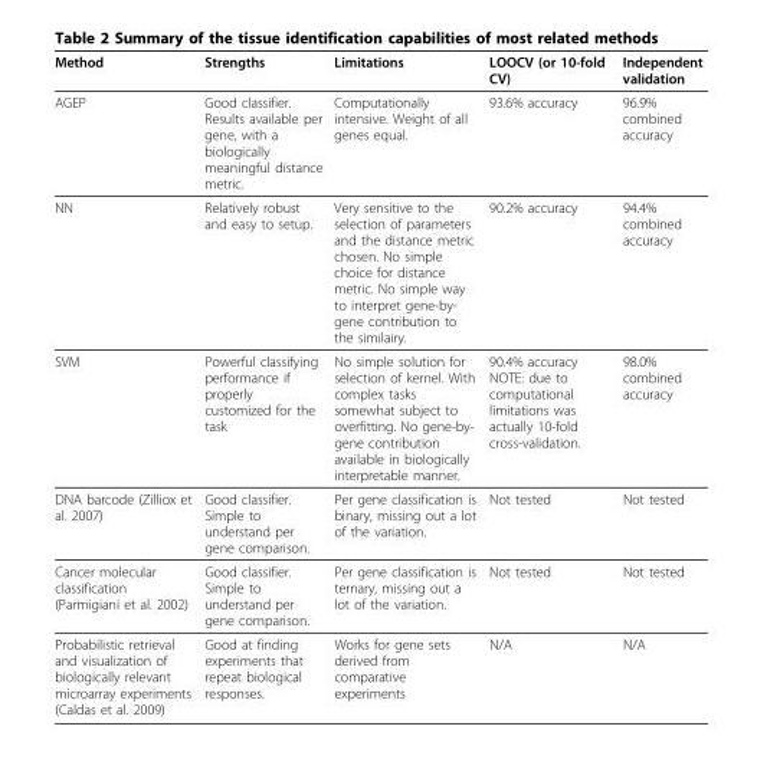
<table><thead><tr><td>Method</td><td>Strengths</td><td>Limitations</td><td>LOOCV (or 10-fold CV)</td><td>Independent validation</td></tr></thead><tbody><tr><td>AGEP</td><td>Good classifier. Results available per gene, with a biologically meaningful distance metric.</td><td>Computationally intensive. Weight of all genes equal.</td><td>93.6% accuracy</td><td>96.9% combined accuracy</td></tr><tr><td>NN</td><td>Relatively robust and easy to setup.</td><td>Very sensitive to the selection of parameters and the distance metric chosen. No simple choice for distance metric. No simple way to interpret gene-by- gene contribution to the similairy.</td><td>90.2% accuracy</td><td>94.4% combined accuracy</td></tr><tr><td>SVM</td><td>Powerful classifying performance if properly customized for the task</td><td>No simple solution for selection of kernel. With complex tasks somewhat subject to overfitting. No gene-by- gene contribution available in biologically interpretable manner.</td><td>90.4% accuracy NOTE: due to computational limitations was actually 10-fold cross-validation.</td><td>98.0% combined accuracy</td></tr><tr><td>DNA barcode (Zilliox et al. 2007)</td><td>Good classifier. Simple to understand per gene comparison.</td><td>Per gene classification is binary, missing out a lot of the variation.</td><td>Not tested</td><td>Not tested</td></tr><tr><td>Cancer molecular classification (Parmigiani et al. 2002)</td><td>Good classifier. Simple to understand per gene comparison.</td><td>Per gene classification is ternary, missing out a lot of the variation.</td><td>Not tested</td><td>Not tested</td></tr><tr><td>Probabilistic retrieval and visualization of biologically relevant microarray experiments (Caldas et al. 2009)</td><td>Good at finding experiments that repeat biological responses.</td><td>Works for gene sets derived from comparative experiments</td><td>N/A</td><td>N/A</td></tr></tbody></table>